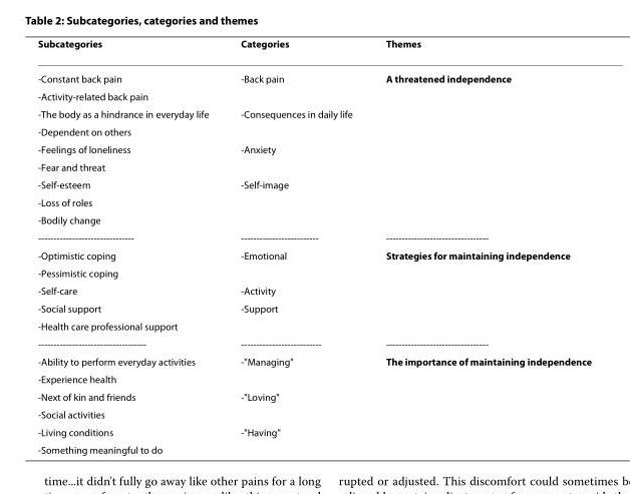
<table><thead><tr><td>Subcategories</td><td>Categories</td><td>Themes</td></tr></thead><tbody><tr><td>-Constant back pain</td><td>-Back pain</td><td>A threatened independence</td></tr><tr><td colspan="3">-Activity-related back pain</td></tr><tr><td>-The body as a hindrance in everyday life</td><td>-Consequences in daily life</td><td></td></tr><tr><td colspan="3">-Dependent on others</td></tr><tr><td>-Feelings of loneliness</td><td>-Anxiety</td><td></td></tr><tr><td colspan="3">-Fear and threat</td></tr><tr><td>-Self-esteem</td><td>-Self-image</td><td></td></tr><tr><td colspan="3">-Loss of roles</td></tr><tr><td colspan="3">-Bodily change</td></tr><tr><td>-------------------------------</td><td>-------------------------</td><td>---------------------------------</td></tr><tr><td>-Optimistic coping</td><td>-Emotional</td><td>Strategies for maintaining independence</td></tr><tr><td colspan="3">-Pessimistic coping</td></tr><tr><td>-Self-care</td><td>-Activity</td><td></td></tr><tr><td>-Social support</td><td>-Support</td><td></td></tr><tr><td colspan="3">-Health care professional support</td></tr><tr><td>-----------------------------------</td><td>--------------------------</td><td>---------------------------------</td></tr><tr><td>-Ability to perform everyday activities</td><td>-&quot;Managing&quot;</td><td>The importance of maintaining independence</td></tr><tr><td colspan="3">-Experience health</td></tr><tr><td>-Next of kin and friends</td><td>-&quot;Loving&quot;</td><td></td></tr><tr><td colspan="3">-Social activities</td></tr><tr><td>-Living conditions</td><td>-&quot;Having&quot;</td><td></td></tr><tr><td>-Something meaningful to do</td><td></td><td></td></tr></tbody></table>